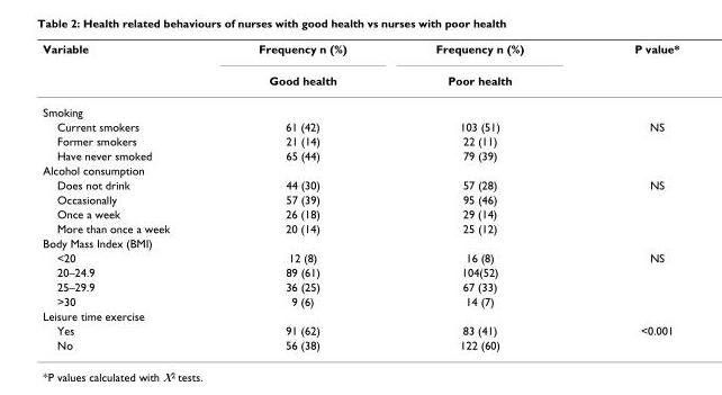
<table><thead><tr><td rowspan="2">Variable</td><td rowspan="2">Frequency n (%) Good health</td><td rowspan="2">Frequency n (%) Poor health</td><td rowspan="2">P value*</td></tr><tr></tr></thead><tbody><tr><td colspan="4">Smoking</td></tr><tr><td>Current smokers</td><td>61 (42)</td><td>103 (51)</td><td>NS</td></tr><tr><td>Former smokers</td><td>21 (14)</td><td>22 (11)</td><td></td></tr><tr><td>Have never smoked</td><td>65 (44)</td><td>79 (39)</td><td></td></tr><tr><td colspan="4">Alcohol consumption</td></tr><tr><td>Does not drink</td><td>44 (30)</td><td>57 (28)</td><td>NS</td></tr><tr><td>Occasionally</td><td>57 (39)</td><td>95 (46)</td><td></td></tr><tr><td>Once a week</td><td>26 (18)</td><td>29 (14)</td><td></td></tr><tr><td>More than once a week</td><td>20 (14)</td><td>25 (12)</td><td></td></tr><tr><td colspan="4">Body Mass Index (BMI)</td></tr><tr><td>&lt;20</td><td>12 (8)</td><td>16 (8)</td><td>NS</td></tr><tr><td>20–24.9</td><td>89 (61)</td><td>104(52)</td><td></td></tr><tr><td>25–29.9</td><td>36 (25)</td><td>67 (33)</td><td></td></tr><tr><td>&gt;30</td><td>9 (6)</td><td>14 (7)</td><td></td></tr><tr><td colspan="4">Leisure time exercise</td></tr><tr><td>Yes</td><td>91 (62)</td><td>83 (41)</td><td>&lt;0.001</td></tr><tr><td>No</td><td>56 (38)</td><td>122 (60)</td><td></td></tr></tbody></table>